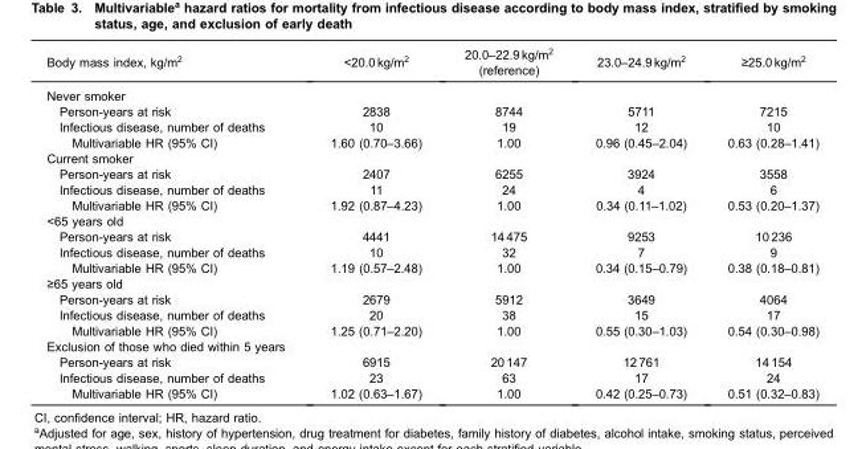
<table><thead><tr><td>Body mass index, kg/m<sup>2</sup></td><td>&lt;20.0 kg/m<sup>2</sup></td><td>20.0–22.9 kg/m<sup>2</sup> (reference)</td><td>23.0–24.9 kg/m<sup>2</sup></td><td>≥25.0 kg/m<sup>2</sup></td></tr></thead><tbody><tr><td colspan="5">Never smoker</td></tr><tr><td>Person-years at risk</td><td>2838</td><td>8744</td><td>5711</td><td>7215</td></tr><tr><td>Infectious disease, number of deaths</td><td>10</td><td>19</td><td>12</td><td>10</td></tr><tr><td>Multivariable HR (95% CI)</td><td>1.60 (0.70–3.66)</td><td>1.00</td><td>0.96 (0.45–2.04)</td><td>0.63 (0.28–1.41)</td></tr><tr><td colspan="5">Current smoker</td></tr><tr><td>Person-years at risk</td><td>2407</td><td>6255</td><td>3924</td><td>3558</td></tr><tr><td>Infectious disease, number of deaths</td><td>11</td><td>24</td><td>4</td><td>6</td></tr><tr><td>Multivariable HR (95% CI)</td><td>1.92 (0.87–4.23)</td><td>1.00</td><td>0.34 (0.11–1.02)</td><td>0.53 (0.20–1.37)</td></tr><tr><td colspan="5">&lt;65 years old</td></tr><tr><td>Person-years at risk</td><td>4441</td><td>14 475</td><td>9253</td><td>10 236</td></tr><tr><td>Infectious disease, number of deaths</td><td>10</td><td>32</td><td>7</td><td>9</td></tr><tr><td>Multivariable HR (95% CI)</td><td>1.19 (0.57–2.48)</td><td>1.00</td><td>0.34 (0.15–0.79)</td><td>0.38 (0.18–0.81)</td></tr><tr><td colspan="5">≥65 years old</td></tr><tr><td>Person-years at risk</td><td>2679</td><td>5912</td><td>3649</td><td>4064</td></tr><tr><td>Infectious disease, number of deaths</td><td>20</td><td>38</td><td>15</td><td>17</td></tr><tr><td>Multivariable HR (95% CI)</td><td>1.25 (0.71–2.20)</td><td>1.00</td><td>0.55 (0.30–1.03)</td><td>0.54 (0.30–0.98)</td></tr><tr><td colspan="5">Exclusion of those who died within 5 years</td></tr><tr><td>Person-years at risk</td><td>6915</td><td>20 147</td><td>12 761</td><td>14 154</td></tr><tr><td>Infectious disease, number of deaths</td><td>23</td><td>63</td><td>17</td><td>24</td></tr><tr><td>Multivariable HR (95% CI)</td><td>1.02 (0.63–1.67)</td><td>1.00</td><td>0.42 (0.25–0.73)</td><td>0.51 (0.32–0.83)</td></tr></tbody></table>